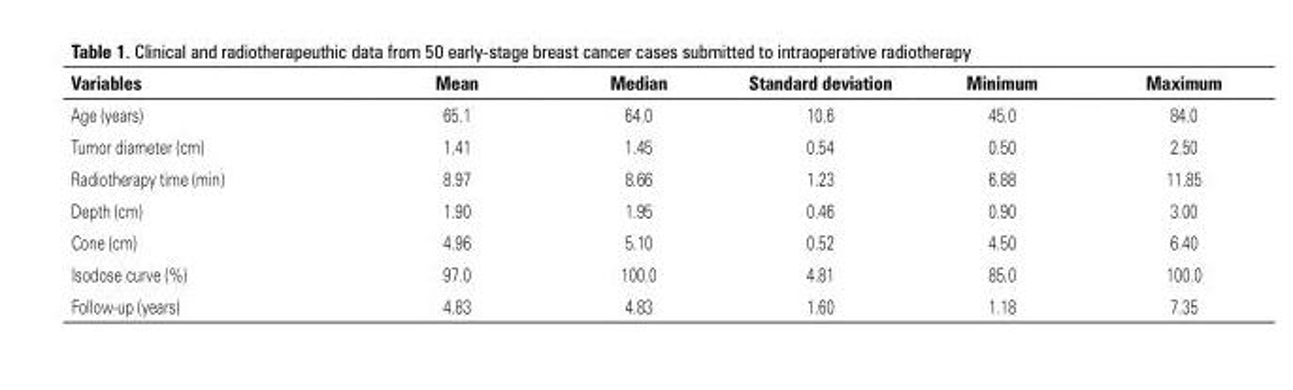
<table><thead><tr><td>Variables</td><td>Mean</td><td>Median</td><td>Standard deviation</td><td>Minimum</td><td>Maximum</td></tr></thead><tbody><tr><td>Age (years)</td><td>65.1</td><td>64.0</td><td>10.6</td><td>45.0</td><td>84.0</td></tr><tr><td>Tumor diameter (cm)</td><td>1.41</td><td>1.45</td><td>0.54</td><td>0.50</td><td>2.50</td></tr><tr><td>Radiotherapy time (min)</td><td>8.97</td><td>8.66</td><td>1.23</td><td>6.88</td><td>11.85</td></tr><tr><td>Depth (cm)</td><td>1.90</td><td>1.95</td><td>0.46</td><td>0.90</td><td>3.00</td></tr><tr><td>Cone (cm)</td><td>4.96</td><td>5.10</td><td>0.52</td><td>4.50</td><td>6.40</td></tr><tr><td>Isodose curve (%)</td><td>97.0</td><td>100.0</td><td>4.81</td><td>85.0</td><td>100.0</td></tr><tr><td>Follow-up (years)</td><td>4.83</td><td>4.83</td><td>1.60</td><td>1.18</td><td>7.35</td></tr></tbody></table>